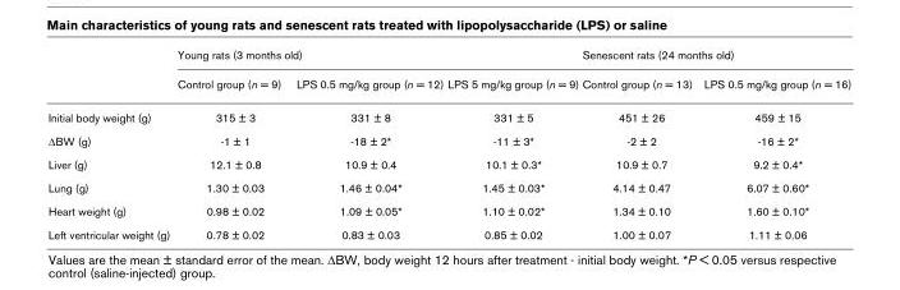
<table><thead><tr><td rowspan="2"></td><td colspan="3">Young rats (3 months old)</td><td colspan="2">Senescent rats (24 months old)</td></tr><tr><td>Control group (n = 9)</td><td>LPS 0.5 mg/kg group (n = 12)</td><td>LPS 5 mg/kg group (n = 9)</td><td>Control group (n = 13)</td><td>LPS 0.5 mg/kg group (n = 16)</td></tr></thead><tbody><tr><td>Initial body weight (g)</td><td>315 ± 3</td><td>331 ± 8</td><td>331 ± 5</td><td>451 ± 26</td><td>459 ± 15</td></tr><tr><td>∆BW (g)</td><td>-1 ± 1</td><td>-18 ± 2*</td><td>-11 ± 3*</td><td>-2 ± 2</td><td>-16 ± 2*</td></tr><tr><td>Liver (g)</td><td>12.1 ± 0.8</td><td>10.9 ± 0.4</td><td>10.1 ± 0.3*</td><td>10.9 ± 0.7</td><td>9.2 ± 0.4*</td></tr><tr><td>Lung (g)</td><td>1.30 ± 0.03</td><td>1.46 ± 0.04*</td><td>1.45 ± 0.03*</td><td>4.14 ± 0.47</td><td>6.07 ± 0.60*</td></tr><tr><td>Heart weight (g)</td><td>0.98 ± 0.02</td><td>1.09 ± 0.05*</td><td>1.10 ± 0.02*</td><td>1.34 ± 0.10</td><td>1.60 ± 0.10*</td></tr><tr><td>Left ventricular weight (g)</td><td>0.78 ± 0.02</td><td>0.83 ± 0.03</td><td>0.85 ± 0.02</td><td>1.00 ± 0.07</td><td>1.11 ± 0.06</td></tr></tbody></table>